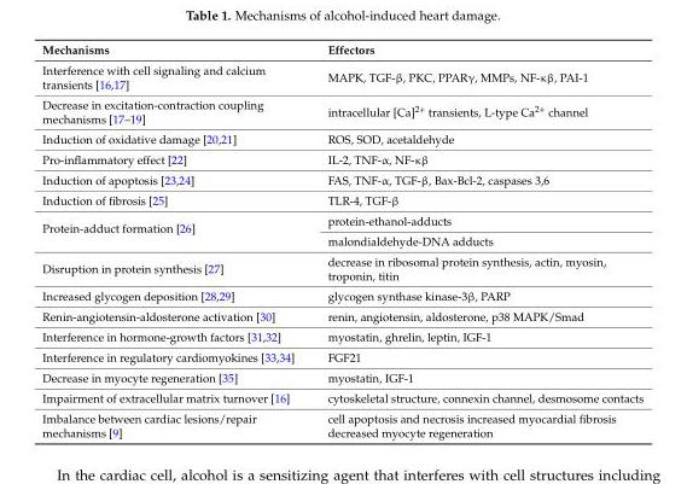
<table><thead><tr><td>Mechanisms</td><td>Effectors</td></tr></thead><tbody><tr><td>Interference with cell signaling and calcium transients [16,17]</td><td>MAPK, TGF-β, PKC, PPARγ, MMPs, NF-κβ, PAI-1</td></tr><tr><td>Decrease in excitation-contraction coupling mechanisms [17–19]</td><td>intracellular [Ca]<sup>2+</sup> transients, L-type Ca<sup>2+</sup> channel</td></tr><tr><td>Induction of oxidative damage [20,21]</td><td>ROS, SOD, acetaldehyde</td></tr><tr><td>Pro-inflammatory effect [22]</td><td>IL-2, TNF-α, NF-κβ</td></tr><tr><td>Induction of apoptosis [23,24]</td><td>FAS, TNF-α, TGF-β, Bax-Bcl-2, caspases 3,6</td></tr><tr><td>Induction of fibrosis [25]</td><td>TLR-4, TGF-β</td></tr><tr><td rowspan="2">Protein-adduct formation [26]</td><td>protein-ethanol-adducts</td></tr><tr><td>malondialdehyde-DNA adducts</td></tr><tr><td>Disruption in protein synthesis [27]</td><td>decrease in ribosomal protein synthesis, actin, myosin, troponin, titin</td></tr><tr><td>Increased glycogen deposition [28,29]</td><td>glycogen synthase kinase-3β, PARP</td></tr><tr><td>Renin-angiotensin-aldosterone activation [30]</td><td>renin, angiotensin, aldosterone, p38 MAPK/Smad</td></tr><tr><td>Interference in hormone-growth factors [31,32]</td><td>myostatin, ghrelin, leptin, IGF-1</td></tr><tr><td>Interference in regulatory cardiomyokines [33,34]</td><td>FGF21</td></tr><tr><td>Decrease in myocyte regeneration [35]</td><td>myostatin, IGF-1</td></tr><tr><td>Impairment of extracellular matrix turnover [16]</td><td>cytoskeletal structure, connexin channel, desmosome contacts</td></tr><tr><td>Imbalance between cardiac lesions/repair mechanisms [9]</td><td>cell apoptosis and necrosis increased myocardial fibrosis decreased myocyte regeneration</td></tr></tbody></table>